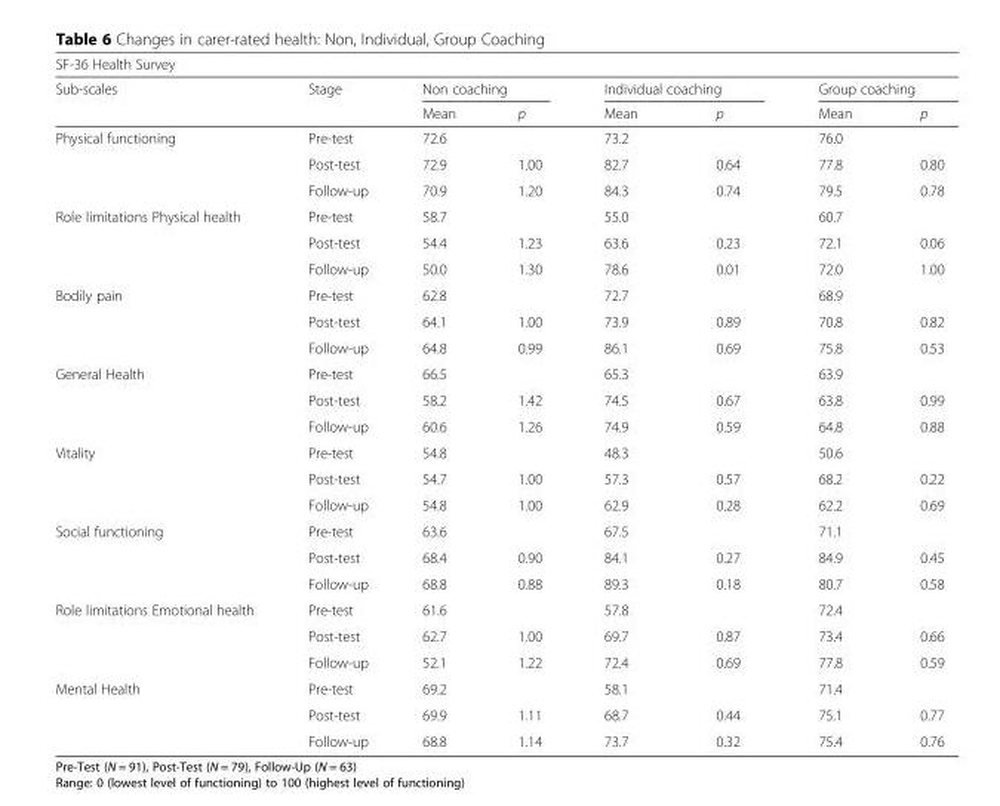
<table><thead><tr><td colspan="8">SF-36 Health Survey</td></tr><tr><td rowspan="2">Sub-scales</td><td rowspan="2">Stage</td><td colspan="2">Non coaching</td><td colspan="2">Individual coaching</td><td colspan="2">Group coaching</td></tr><tr><td>Mean</td><td>p</td><td>Mean</td><td>p</td><td>Mean</td><td>p</td></tr></thead><tbody><tr><td rowspan="3">Physical functioning</td><td>Pre-test</td><td>72.6</td><td></td><td>73.2</td><td></td><td>76.0</td><td></td></tr><tr><td>Post-test</td><td>72.9</td><td>1.00</td><td>82.7</td><td>0.64</td><td>77.8</td><td>0.80</td></tr><tr><td>Follow-up</td><td>70.9</td><td>1.20</td><td>84.3</td><td>0.74</td><td>79.5</td><td>0.78</td></tr><tr><td rowspan="3">Role limitations Physical health</td><td>Pre-test</td><td>58.7</td><td></td><td>55.0</td><td></td><td>60.7</td><td></td></tr><tr><td>Post-test</td><td>54.4</td><td>1.23</td><td>63.6</td><td>0.23</td><td>72.1</td><td>0.06</td></tr><tr><td>Follow-up</td><td>50.0</td><td>1.30</td><td>78.6</td><td>0.01</td><td>72.0</td><td>1.00</td></tr><tr><td rowspan="3">Bodily pain</td><td>Pre-test</td><td>62.8</td><td></td><td>72.7</td><td></td><td>68.9</td><td></td></tr><tr><td>Post-test</td><td>64.1</td><td>1.00</td><td>73.9</td><td>0.89</td><td>70.8</td><td>0.82</td></tr><tr><td>Follow-up</td><td>64.8</td><td>0.99</td><td>86.1</td><td>0.69</td><td>75.8</td><td>0.53</td></tr><tr><td rowspan="3">General Health</td><td>Pre-test</td><td>66.5</td><td></td><td>65.3</td><td></td><td>63.9</td><td></td></tr><tr><td>Post-test</td><td>58.2</td><td>1.42</td><td>74.5</td><td>0.67</td><td>63.8</td><td>0.99</td></tr><tr><td>Follow-up</td><td>60.6</td><td>1.26</td><td>74.9</td><td>0.59</td><td>64.8</td><td>0.88</td></tr><tr><td rowspan="3">Vitality</td><td>Pre-test</td><td>54.8</td><td></td><td>48.3</td><td></td><td>50.6</td><td></td></tr><tr><td>Post-test</td><td>54.7</td><td>1.00</td><td>57.3</td><td>0.57</td><td>68.2</td><td>0.22</td></tr><tr><td>Follow-up</td><td>54.8</td><td>1.00</td><td>62.9</td><td>0.28</td><td>62.2</td><td>0.69</td></tr><tr><td rowspan="3">Social functioning</td><td>Pre-test</td><td>63.6</td><td></td><td>67.5</td><td></td><td>71.1</td><td></td></tr><tr><td>Post-test</td><td>68.4</td><td>0.90</td><td>84.1</td><td>0.27</td><td>84.9</td><td>0.45</td></tr><tr><td>Follow-up</td><td>68.8</td><td>0.88</td><td>89.3</td><td>0.18</td><td>80.7</td><td>0.58</td></tr><tr><td rowspan="3">Role limitations Emotional health</td><td>Pre-test</td><td>61.6</td><td></td><td>57.8</td><td></td><td>72.4</td><td></td></tr><tr><td>Post-test</td><td>62.7</td><td>1.00</td><td>69.7</td><td>0.87</td><td>73.4</td><td>0.66</td></tr><tr><td>Follow-up</td><td>52.1</td><td>1.22</td><td>72.4</td><td>0.69</td><td>77.8</td><td>0.59</td></tr><tr><td rowspan="3">Mental Health</td><td>Pre-test</td><td>69.2</td><td></td><td>58.1</td><td></td><td>71.4</td><td></td></tr><tr><td>Post-test</td><td>69.9</td><td>1.11</td><td>68.7</td><td>0.44</td><td>75.1</td><td>0.77</td></tr><tr><td>Follow-up</td><td>68.8</td><td>1.14</td><td>73.7</td><td>0.32</td><td>75.4</td><td>0.76</td></tr></tbody></table>